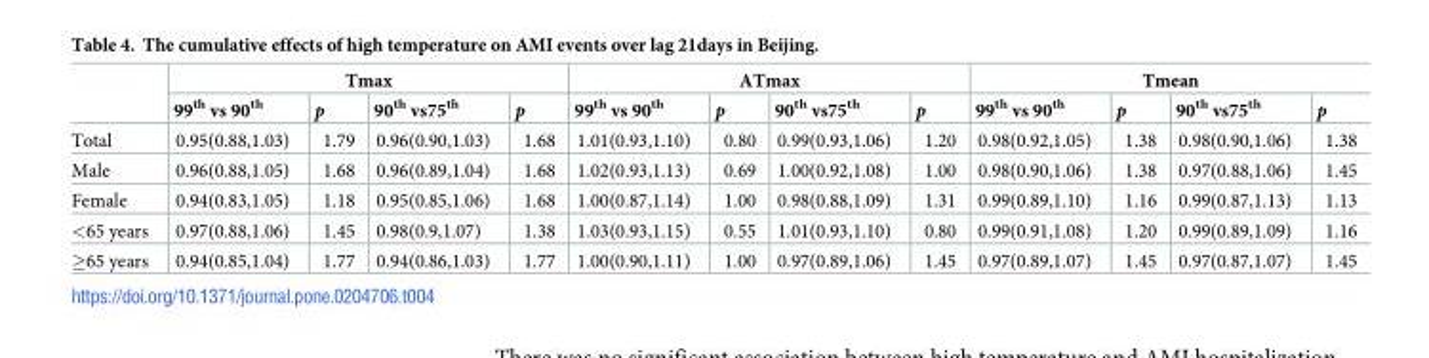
<table><thead><tr><td rowspan="2"></td><td colspan="4">Tmax</td><td colspan="4">ATmax</td><td colspan="4">Tmean</td></tr><tr><td>99<sup>th</sup> vs 90<sup>th</sup></td><td>p</td><td>90<sup>th</sup> vs75<sup>th</sup></td><td>p</td><td>99<sup>th</sup> vs 90<sup>th</sup></td><td>p</td><td>90<sup>th</sup> vs75<sup>th</sup></td><td>p</td><td>99<sup>th</sup> vs 90<sup>th</sup></td><td>p</td><td>90<sup>th</sup> vs75<sup>th</sup></td><td>p</td></tr></thead><tbody><tr><td>Total</td><td>0.95(0.88,1.03)</td><td>1.79</td><td>0.96(0.90,1.03)</td><td>1.68</td><td>1.01(0.93,1.10)</td><td>0.80</td><td>0.99(0.93,1.06)</td><td>1.20</td><td>0.98(0.92,1.05)</td><td>1.38</td><td>0.98(0.90,1.06)</td><td>1.38</td></tr><tr><td>Male</td><td>0.96(0.88,1.05)</td><td>1.68</td><td>0.96(0.89,1.04)</td><td>1.68</td><td>1.02(0.93,1.13)</td><td>0.69</td><td>1.00(0.92,1.08)</td><td>1.00</td><td>0.98(0.90,1.06)</td><td>1.38</td><td>0.97(0.88,1.06)</td><td>1.45</td></tr><tr><td>Female</td><td>0.94(0.83,1.05)</td><td>1.18</td><td>0.95(0.85,1.06)</td><td>1.68</td><td>1.00(0.87,1.14)</td><td>1.00</td><td>0.98(0.88,1.09)</td><td>1.31</td><td>0.99(0.89,1.10)</td><td>1.16</td><td>0.99(0.87,1.13)</td><td>1.13</td></tr><tr><td>&lt;65 years</td><td>0.97(0.88,1.06)</td><td>1.45</td><td>0.98(0.9,1.07)</td><td>1.38</td><td>1.03(0.93,1.15)</td><td>0.55</td><td>1.01(0.93,1.10)</td><td>0.80</td><td>0.99(0.91,1.08)</td><td>1.20</td><td>0.99(0.89,1.09)</td><td>1.16</td></tr><tr><td>≥65 years</td><td>0.94(0.85,1.04)</td><td>1.77</td><td>0.94(0.86,1.03)</td><td>1.77</td><td>1.00(0.90,1.11)</td><td>1.00</td><td>0.97(0.89,1.06)</td><td>1.45</td><td>0.97(0.89,1.07)</td><td>1.45</td><td>0.97(0.87,1.07)</td><td>1.45</td></tr></tbody></table>